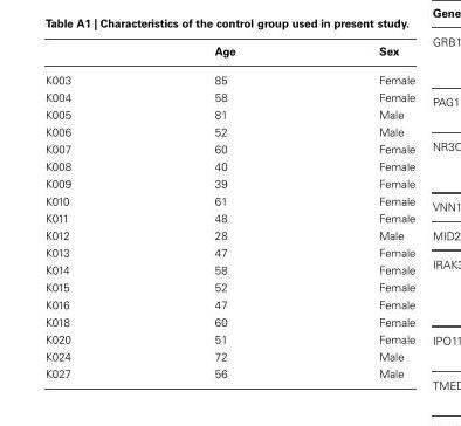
<table><thead><tr><td></td><td>Age</td><td>Sex</td></tr></thead><tbody><tr><td>K003</td><td>85</td><td>Female</td></tr><tr><td>K004</td><td>58</td><td>Female</td></tr><tr><td>K005</td><td>81</td><td>Male</td></tr><tr><td>K006</td><td>52</td><td>Male</td></tr><tr><td>K007</td><td>60</td><td>Female</td></tr><tr><td>K008</td><td>40</td><td>Female</td></tr><tr><td>K009</td><td>39</td><td>Female</td></tr><tr><td>K010</td><td>61</td><td>Female</td></tr><tr><td>K011</td><td>48</td><td>Female</td></tr><tr><td>K012</td><td>28</td><td>Male</td></tr><tr><td>K013</td><td>47</td><td>Female</td></tr><tr><td>K014</td><td>58</td><td>Female</td></tr><tr><td>K015</td><td>52</td><td>Female</td></tr><tr><td>K016</td><td>47</td><td>Female</td></tr><tr><td>K018</td><td>60</td><td>Female</td></tr><tr><td>K020</td><td>51</td><td>Female</td></tr><tr><td>K024</td><td>72</td><td>Male</td></tr><tr><td>K027</td><td>56</td><td>Male</td></tr></tbody></table>